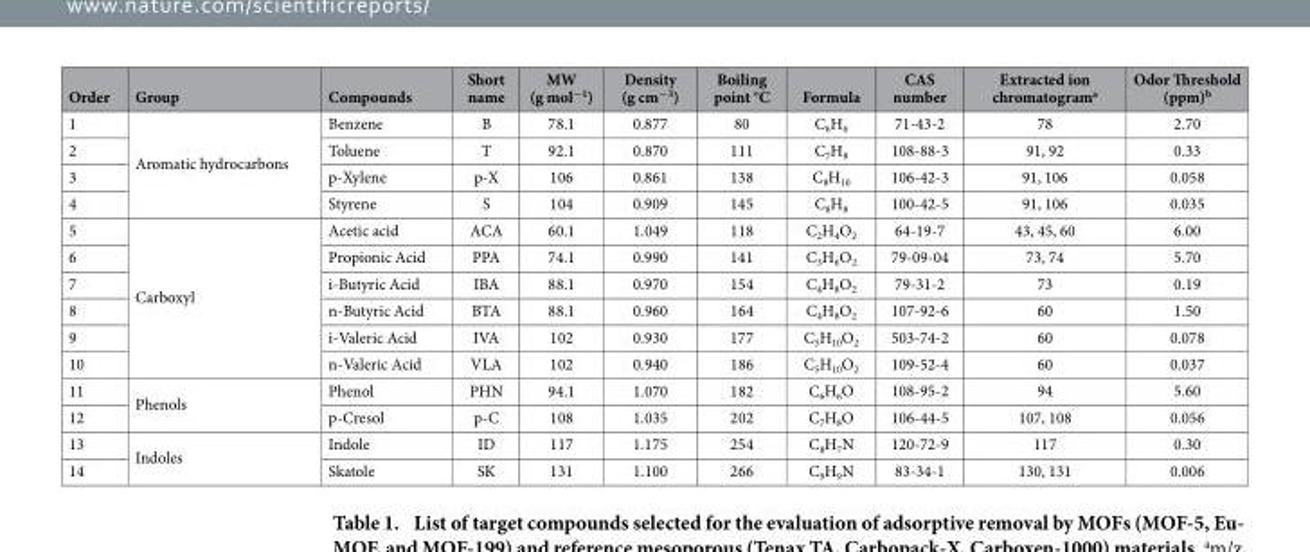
<table><thead><tr><td>Order</td><td>Group</td><td>Compounds</td><td>Short name</td><td>MW (g mol<sup>−1</sup>)</td><td>Density (g cm<sup>−3</sup>)</td><td>Boiling point °C</td><td>Formula</td><td>CAS number</td><td>Extracted ion chromatogram<sup>a</sup></td><td>Odor Threshold (ppm)<sup>b</sup></td></tr></thead><tbody><tr><td>1</td><td rowspan="4">Aromatic hydrocarbons</td><td>Benzene</td><td>B</td><td>78.1</td><td>0.877</td><td>80</td><td>C<sub>6</sub>H<sub>6</sub></td><td>71-43-2</td><td>78</td><td>2.70</td></tr><tr><td>2</td><td>Toluene</td><td>T</td><td>92.1</td><td>0.870</td><td>111</td><td>C<sub>7</sub>H<sub>8</sub></td><td>108-88-3</td><td>91, 92</td><td>0.33</td></tr><tr><td>3</td><td>p-Xylene</td><td>p-X</td><td>106</td><td>0.861</td><td>138</td><td>C<sub>8</sub>H<sub>10</sub></td><td>106-42-3</td><td>91, 106</td><td>0.058</td></tr><tr><td>4</td><td>Styrene</td><td>S</td><td>104</td><td>0.909</td><td>145</td><td>C<sub>8</sub>H<sub>8</sub></td><td>100-42-5</td><td>91, 106</td><td>0.035</td></tr><tr><td>5</td><td rowspan="6">Carboxyl</td><td>Acetic acid</td><td>ACA</td><td>60.1</td><td>1.049</td><td>118</td><td>C<sub>2</sub>H<sub>4</sub>O<sub>2</sub></td><td>64-19-7</td><td>43, 45, 60</td><td>6.00</td></tr><tr><td>6</td><td>Propionic Acid</td><td>PPA</td><td>74.1</td><td>0.990</td><td>141</td><td>C<sub>3</sub>H<sub>6</sub>O<sub>2</sub></td><td>79-09-04</td><td>73, 74</td><td>5.70</td></tr><tr><td>7</td><td>i-Butyric Acid</td><td>IBA</td><td>88.1</td><td>0.970</td><td>154</td><td>C<sub>4</sub>H<sub>8</sub>O<sub>2</sub></td><td>79-31-2</td><td>73</td><td>0.19</td></tr><tr><td>8</td><td>n-Butyric Acid</td><td>BTA</td><td>88.1</td><td>0.960</td><td>164</td><td>C<sub>4</sub>H<sub>8</sub>O<sub>2</sub></td><td>107-92-6</td><td>60</td><td>1.50</td></tr><tr><td>9</td><td>i-Valeric Acid</td><td>IVA</td><td>102</td><td>0.930</td><td>177</td><td>C<sub>5</sub>H<sub>10</sub>O<sub>2</sub></td><td>503-74-2</td><td>60</td><td>0.078</td></tr><tr><td>10</td><td>n-Valeric Acid</td><td>VLA</td><td>102</td><td>0.940</td><td>186</td><td>C<sub>5</sub>H<sub>10</sub>O<sub>2</sub></td><td>109-52-4</td><td>60</td><td>0.037</td></tr><tr><td>11</td><td rowspan="2">Phenols</td><td>Phenol</td><td>PHN</td><td>94.1</td><td>1.070</td><td>182</td><td>C<sub>6</sub>H<sub>6</sub>O</td><td>108-95-2</td><td>94</td><td>5.60</td></tr><tr><td>12</td><td>p-Cresol</td><td>p-C</td><td>108</td><td>1.035</td><td>202</td><td>C<sub>7</sub>H<sub>8</sub>O</td><td>106-44-5</td><td>107, 108</td><td>0.056</td></tr><tr><td>13</td><td rowspan="2">Indoles</td><td>Indole</td><td>ID</td><td>117</td><td>1.175</td><td>254</td><td>C<sub>8</sub>H<sub>7</sub>N</td><td>120-72-9</td><td>117</td><td>0.30</td></tr><tr><td>14</td><td>Skatole</td><td>SK</td><td>131</td><td>1.100</td><td>266</td><td>C<sub>9</sub>H<sub>9</sub>N</td><td>83-34-1</td><td>130, 131</td><td>0.006</td></tr></tbody></table>